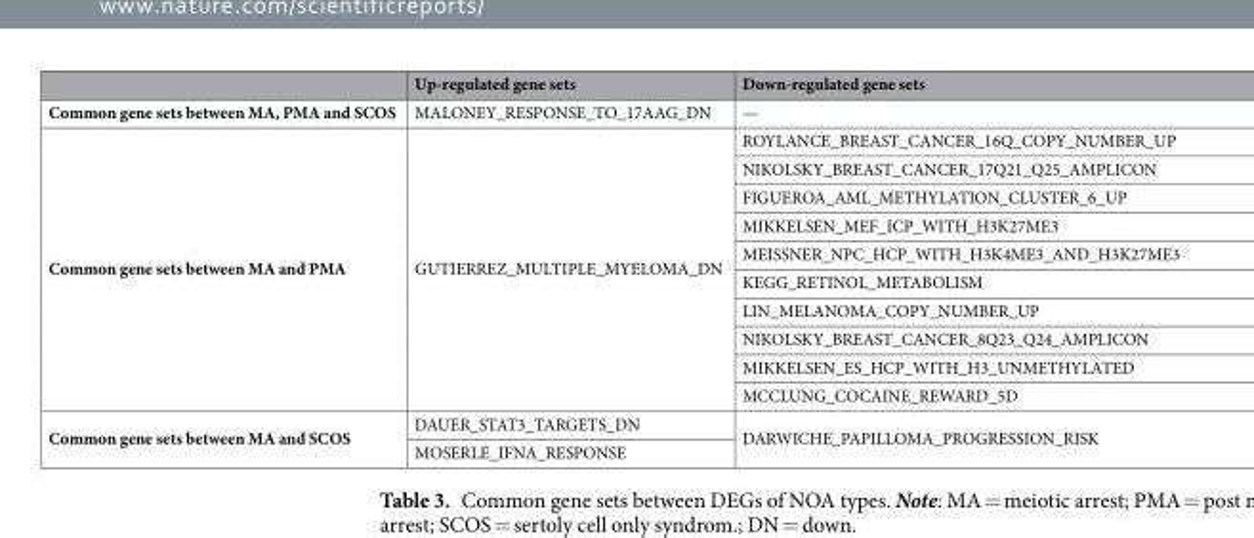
<table><thead><tr><td></td><td>Up-regulated gene sets</td><td>Down-regulated gene sets</td></tr></thead><tbody><tr><td>Common gene sets between MA, PMA and SCOS</td><td>MALONEY_RESPONSE_TO_17AAG_DN</td><td>—</td></tr><tr><td rowspan="10">Common gene sets between MA and PMA</td><td rowspan="10">GUTIERREZ_MULTIPLE_MYELOMA_DN</td><td>ROYLANCE_BREAST_CANCER_16Q_COPY_NUMBER_UP</td></tr><tr><td>NIKOLSKY_BREAST_CANCER_17Q21_Q25_AMPLICON</td></tr><tr><td>FIGUEROA_AML_METHYLATION_CLUSTER_6_UP</td></tr><tr><td>MIKKELSEN_MEF_ICP_WITH_H3K27ME3</td></tr><tr><td>MEISSNER_NPC_HCP_WITH_H3K4ME3_AND_H3K27ME3</td></tr><tr><td>KEGG_RETINOL_METABOLISM</td></tr><tr><td>LIN_MELANOMA_COPY_NUMBER_UP</td></tr><tr><td>NIKOLSKY_BREAST_CANCER_8Q23_Q24_AMPLICON</td></tr><tr><td>MIKKELSEN_ES_HCP_WITH_H3_UNMETHYLATED</td></tr><tr><td>MCCLUNG_COCAINE_REWARD_5D</td></tr><tr><td rowspan="2">Common gene sets between MA and SCOS</td><td>DAUER_STAT3_TARGETS_DN</td><td rowspan="2">DARWICHE_PAPILLOMA_PROGRESSION_RISK</td></tr><tr><td>MOSERLE_IFNA_RESPONSE</td></tr></tbody></table>